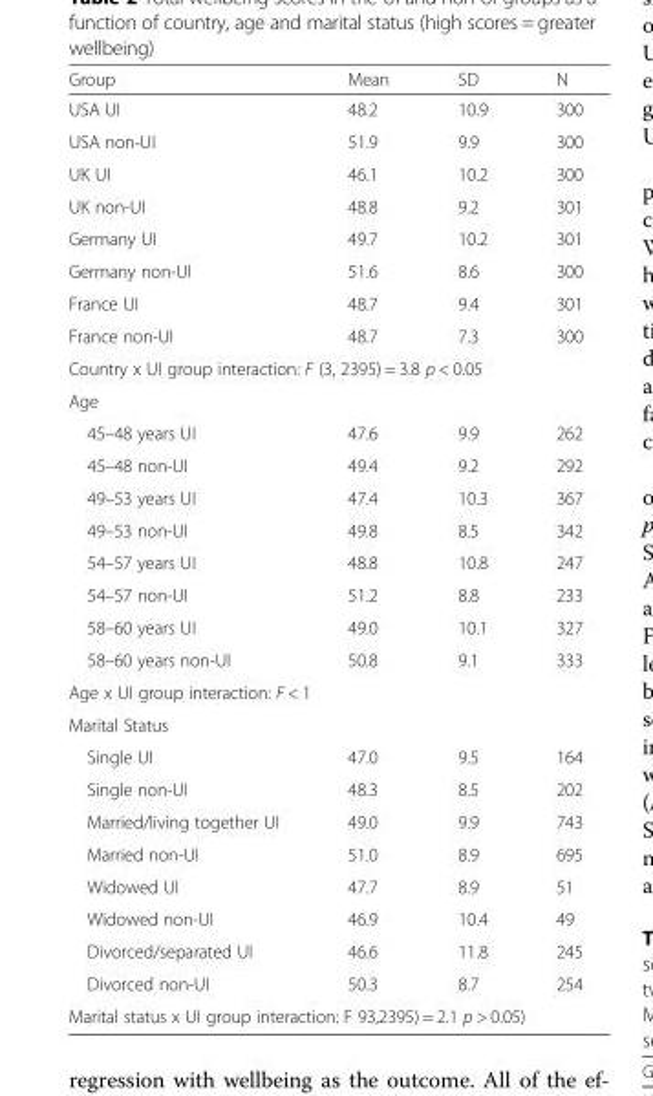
<table><thead><tr><td>Group</td><td>Mean</td><td>SD</td><td>N</td></tr></thead><tbody><tr><td>USA UI</td><td>48.2</td><td>10.9</td><td>300</td></tr><tr><td>USA non-UI</td><td>51.9</td><td>9.9</td><td>300</td></tr><tr><td>UK UI</td><td>46.1</td><td>10.2</td><td>300</td></tr><tr><td>UK non-UI</td><td>48.8</td><td>9.2</td><td>301</td></tr><tr><td>Germany UI</td><td>49.7</td><td>10.2</td><td>301</td></tr><tr><td>Germany non-UI</td><td>51.6</td><td>8.6</td><td>300</td></tr><tr><td>France UI</td><td>48.7</td><td>9.4</td><td>301</td></tr><tr><td>France non-UI</td><td>48.7</td><td>7.3</td><td>300</td></tr><tr><td colspan="4">Country x UI group interaction: F (3, 2395) = 3.8 p &lt; 0.05</td></tr><tr><td colspan="4">Age</td></tr><tr><td>45–48 years UI</td><td>47.6</td><td>9.9</td><td>262</td></tr><tr><td>45–48 non-UI</td><td>49.4</td><td>9.2</td><td>292</td></tr><tr><td>49–53 years UI</td><td>47.4</td><td>10.3</td><td>367</td></tr><tr><td>49–53 non-UI</td><td>49.8</td><td>8.5</td><td>342</td></tr><tr><td>54–57 years UI</td><td>48.8</td><td>10.8</td><td>247</td></tr><tr><td>54–57 non-UI</td><td>51.2</td><td>8.8</td><td>233</td></tr><tr><td>58–60 years UI</td><td>49.0</td><td>10.1</td><td>327</td></tr><tr><td>58–60 years non-UI</td><td>50.8</td><td>9.1</td><td>333</td></tr><tr><td colspan="4">Age x UI group interaction: F &lt; 1</td></tr><tr><td colspan="4">Marital Status</td></tr><tr><td>Single UI</td><td>47.0</td><td>9.5</td><td>164</td></tr><tr><td>Single non-UI</td><td>48.3</td><td>8.5</td><td>202</td></tr><tr><td>Married/living together UI</td><td>49.0</td><td>9.9</td><td>743</td></tr><tr><td>Married non-UI</td><td>51.0</td><td>8.9</td><td>695</td></tr><tr><td>Widowed UI</td><td>47.7</td><td>8.9</td><td>51</td></tr><tr><td>Widowed non-UI</td><td>46.9</td><td>10.4</td><td>49</td></tr><tr><td>Divorced/separated UI</td><td>46.6</td><td>11.8</td><td>245</td></tr><tr><td>Divorced non-UI</td><td>50.3</td><td>8.7</td><td>254</td></tr><tr><td colspan="4">Marital status x UI group interaction: F 93,2395) = 2.1 p &gt; 0.05)</td></tr></tbody></table>